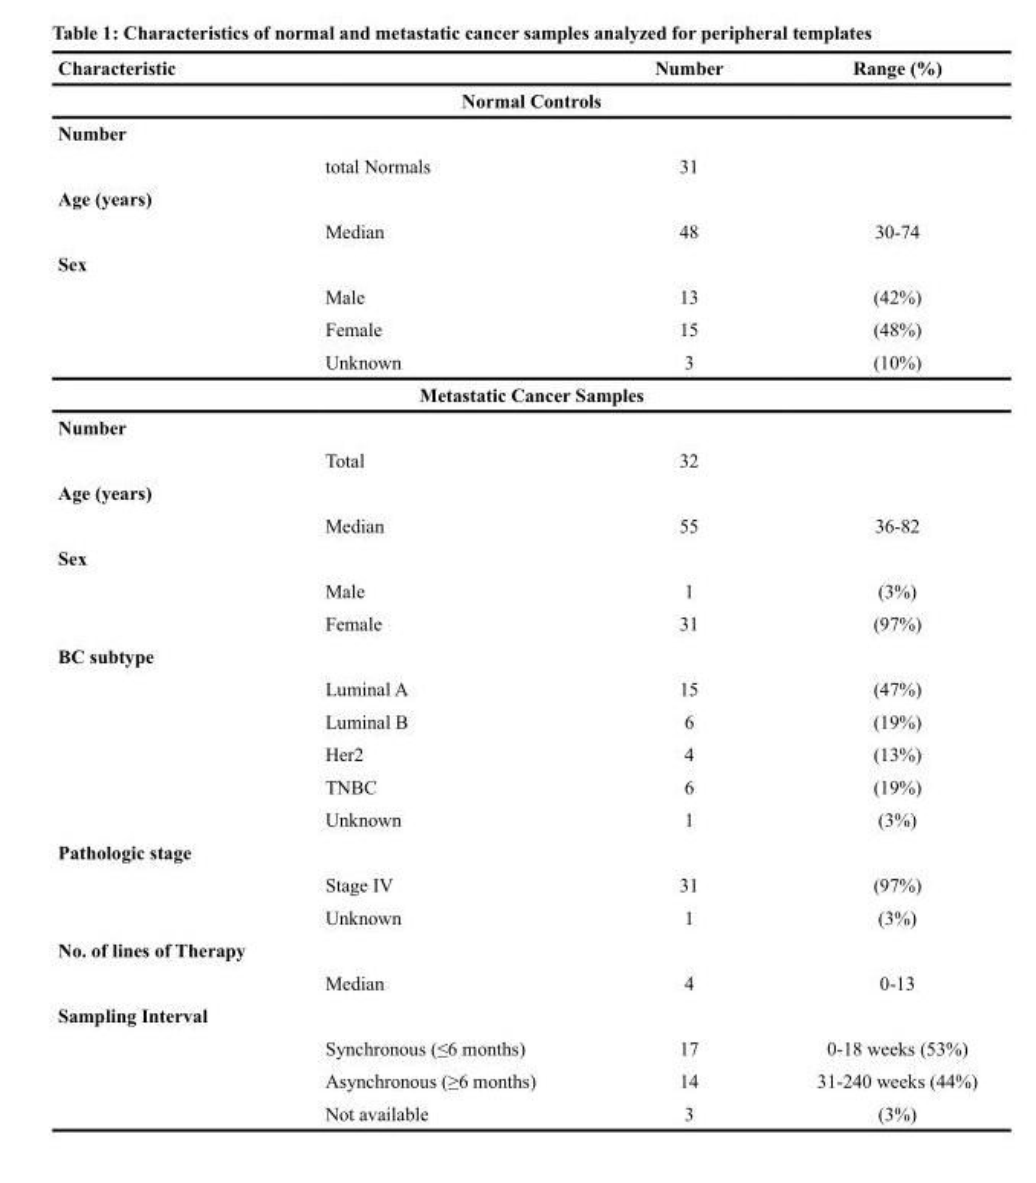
<table><thead><tr><td>Characteristic</td><td></td><td>Number</td><td>Range (%)</td></tr></thead><tbody><tr><td colspan="4">Normal Controls</td></tr><tr><td colspan="4">Number</td></tr><tr><td></td><td>total Normals</td><td>31</td><td></td></tr><tr><td colspan="4">Age (years)</td></tr><tr><td></td><td>Median</td><td>48</td><td>30-74</td></tr><tr><td colspan="4">Sex</td></tr><tr><td></td><td>Male</td><td>13</td><td>(42%)</td></tr><tr><td></td><td>Female</td><td>15</td><td>(48%)</td></tr><tr><td></td><td>Unknown</td><td>3</td><td>(10%)</td></tr><tr><td colspan="4">Metastatic Cancer Samples</td></tr><tr><td colspan="4">Number</td></tr><tr><td></td><td>Total</td><td>32</td><td></td></tr><tr><td colspan="4">Age (years)</td></tr><tr><td></td><td>Median</td><td>55</td><td>36-82</td></tr><tr><td colspan="4">Sex</td></tr><tr><td></td><td>Male</td><td>1</td><td>(3%)</td></tr><tr><td></td><td>Female</td><td>31</td><td>(97%)</td></tr><tr><td colspan="4">BC subtype</td></tr><tr><td></td><td>Luminal A</td><td>15</td><td>(47%)</td></tr><tr><td></td><td>Luminal B</td><td>6</td><td>(19%)</td></tr><tr><td></td><td>Her2</td><td>4</td><td>(13%)</td></tr><tr><td></td><td>TNBC</td><td>6</td><td>(19%)</td></tr><tr><td></td><td>Unknown</td><td>1</td><td>(3%)</td></tr><tr><td colspan="4">Pathologic stage</td></tr><tr><td></td><td>Stage IV</td><td>31</td><td>(97%)</td></tr><tr><td></td><td>Unknown</td><td>1</td><td>(3%)</td></tr><tr><td colspan="4">No. of lines of Therapy</td></tr><tr><td></td><td>Median</td><td>4</td><td>0-13</td></tr><tr><td colspan="4">Sampling Interval</td></tr><tr><td></td><td>Synchronous (≤6 months)</td><td>17</td><td>0-18 weeks (53%)</td></tr><tr><td></td><td>Asynchronous (≥6 months)</td><td>14</td><td>31-240 weeks (44%)</td></tr><tr><td></td><td>Not available</td><td>3</td><td>(3%)</td></tr></tbody></table>